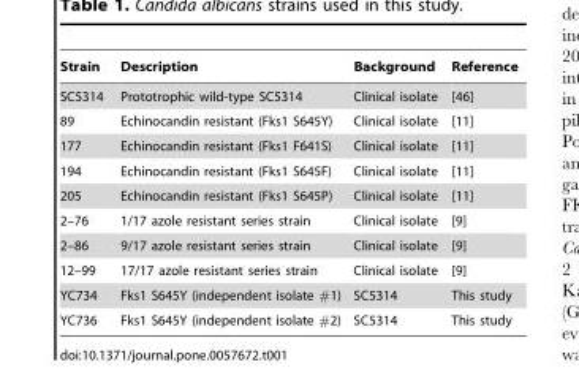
<table><thead><tr><td>Strain</td><td>Description</td><td>Background</td><td>Reference</td></tr></thead><tbody><tr><td>SC5314</td><td>Prototrophic wild-type SC5314</td><td>Clinical isolate</td><td>[46]</td></tr><tr><td>89</td><td>Echinocandin resistant (Fks1 S645Y)</td><td>Clinical isolate</td><td>[11]</td></tr><tr><td>177</td><td>Echinocandin resistant (Fks1 F641S)</td><td>Clinical isolate</td><td>[11]</td></tr><tr><td>194</td><td>Echinocandin resistant (Fks1 S645F)</td><td>Clinical isolate</td><td>[11]</td></tr><tr><td>205</td><td>Echinocandin resistant (Fks1 S645P)</td><td>Clinical isolate</td><td>[11]</td></tr><tr><td>2–76</td><td>1/17 azole resistant series strain</td><td>Clinical isolate</td><td>[9]</td></tr><tr><td>2–86</td><td>9/17 azole resistant series strain</td><td>Clinical isolate</td><td>[9]</td></tr><tr><td>12–99</td><td>17/17 azole resistant series strain</td><td>Clinical isolate</td><td>[9]</td></tr><tr><td>YC734</td><td>Fks1 S645Y (independent isolate #1)</td><td>SC5314</td><td>This study</td></tr><tr><td>YC736</td><td>Fks1 S645Y (independent isolate #2)</td><td>SC5314</td><td>This study</td></tr></tbody></table>